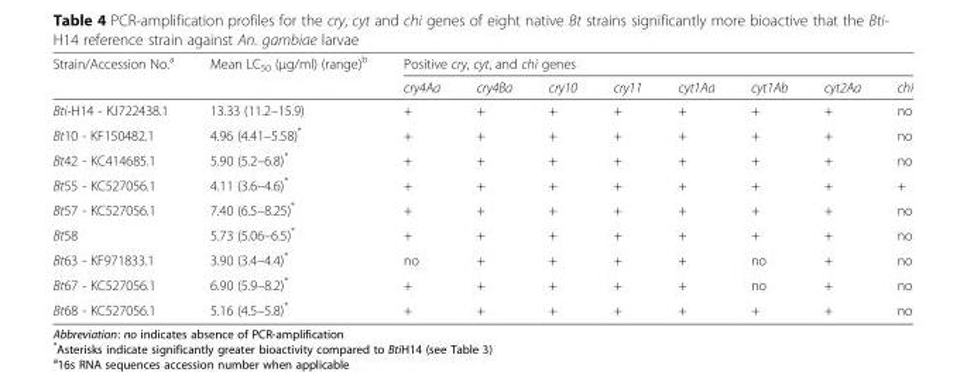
<table><thead><tr><td rowspan="2">Strain/Accession No.<sup>a</sup></td><td rowspan="2">Mean LC<sub>50</sub> (μg/ml) (range)<sup>b</sup></td><td colspan="8">Positive cry, cyt, and chi genes</td></tr><tr><td>cry4Aa</td><td>cry4Ba</td><td>cry10</td><td>cry11</td><td>cyt1Aa</td><td>cyt1Ab</td><td>cyt2Aa</td><td>chi</td></tr></thead><tbody><tr><td>Bti-H14 - KJ722438.1</td><td>13.33 (11.2–15.9)</td><td>+</td><td>+</td><td>+</td><td>+</td><td>+</td><td>+</td><td>+</td><td>no</td></tr><tr><td>Bt10 - KF150482.1</td><td>4.96 (4.41–5.58)*</td><td>+</td><td>+</td><td>+</td><td>+</td><td>+</td><td>+</td><td>+</td><td>no</td></tr><tr><td>Bt42 - KC414685.1</td><td>5.90 (5.2–6.8)*</td><td>+</td><td>+</td><td>+</td><td>+</td><td>+</td><td>+</td><td>+</td><td>no</td></tr><tr><td>Bt55 - KC527056.1</td><td>4.11 (3.6–4.6)*</td><td>+</td><td>+</td><td>+</td><td>+</td><td>+</td><td>+</td><td>+</td><td>+</td></tr><tr><td>Bt57 - KC527056.1</td><td>7.40 (6.5–8.25)*</td><td>+</td><td>+</td><td>+</td><td>+</td><td>+</td><td>+</td><td>+</td><td>no</td></tr><tr><td>Bt58</td><td>5.73 (5.06–6.5)*</td><td>+</td><td>+</td><td>+</td><td>+</td><td>+</td><td>+</td><td>+</td><td>no</td></tr><tr><td>Bt63 - KF971833.1</td><td>3.90 (3.4–4.4)*</td><td>no</td><td>+</td><td>+</td><td>+</td><td>+</td><td>no</td><td>+</td><td>no</td></tr><tr><td>Bt67 - KC527056.1</td><td>6.90 (5.9–8.2)*</td><td>+</td><td>+</td><td>+</td><td>+</td><td>+</td><td>no</td><td>+</td><td>no</td></tr><tr><td>Bt68 - KC527056.1</td><td>5.16 (4.5–5.8)*</td><td>+</td><td>+</td><td>+</td><td>+</td><td>+</td><td>+</td><td>+</td><td>no</td></tr></tbody></table>